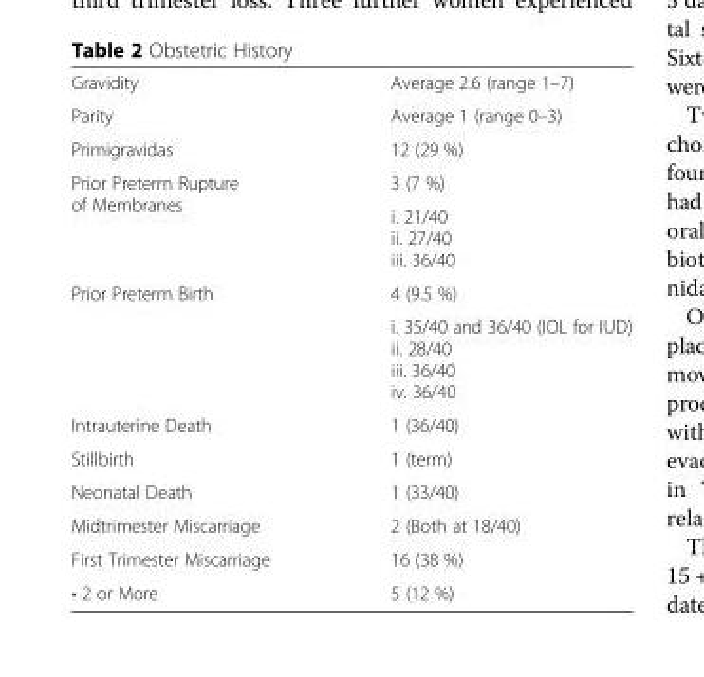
<table><tbody><tr><td>Gravidity</td><td>Average 2.6 (range 1–7)</td></tr><tr><td>Parity</td><td>Average 1 (range 0–3)</td></tr><tr><td>Primigravidas</td><td>12 (29 %)</td></tr><tr><td rowspan="2">Prior Preterm Rupture of Membranes</td><td>3 (7 %)</td></tr><tr><td>i. 21/40 ii. 27/40 iii. 36/40</td></tr><tr><td rowspan="2">Prior Preterm Birth</td><td>4 (9.5 %)</td></tr><tr><td>i. 35/40 and 36/40 (IOL for IUD) ii. 28/40 iii. 36/40 iv. 36/40</td></tr><tr><td>Intrauterine Death</td><td>1 (36/40)</td></tr><tr><td>Stillbirth</td><td>1 (term)</td></tr><tr><td>Neonatal Death</td><td>1 (33/40)</td></tr><tr><td>Midtrimester Miscarriage</td><td>2 (Both at 18/40)</td></tr><tr><td>First Trimester Miscarriage</td><td>16 (38 %)</td></tr><tr><td>• 2 or More</td><td>5 (12 %)</td></tr></tbody></table>